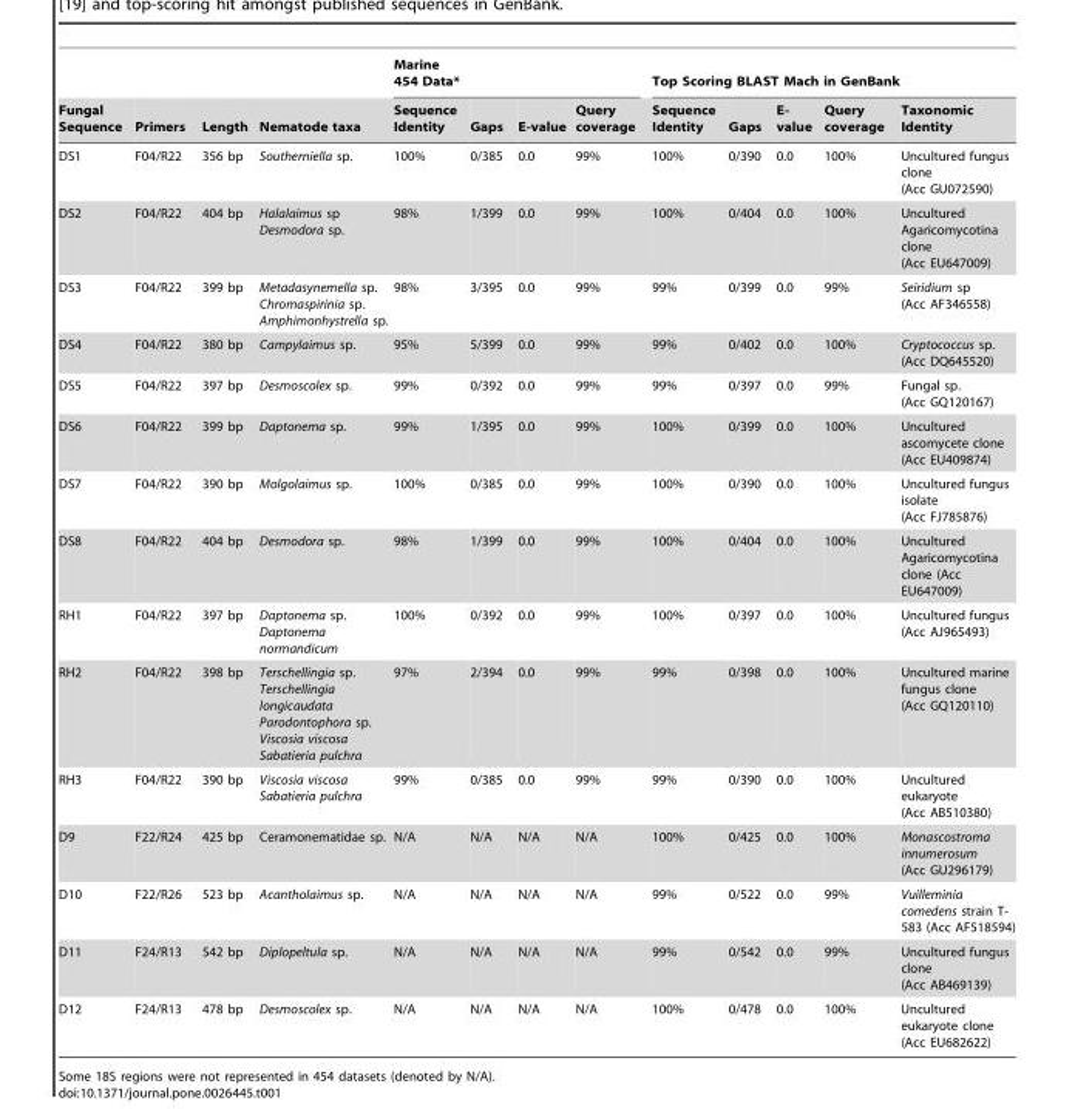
<table><thead><tr><td rowspan="2">Fungal Sequence</td><td rowspan="2">Primers</td><td rowspan="2">Length</td><td rowspan="2">Nematode taxa</td><td colspan="4">Marine 454 Data*</td><td colspan="5">Top Scoring BLAST Mach in GenBank</td></tr><tr><td>Sequence Identity</td><td>Gaps</td><td>E-value</td><td>Query coverage</td><td>Sequence Identity</td><td>Gaps</td><td>E- value</td><td>Query coverage</td><td>Taxonomic Identity</td></tr></thead><tbody><tr><td>DS1</td><td>F04/R22</td><td>356 bp</td><td>Southerniella sp.</td><td>100%</td><td>0/385</td><td>0.0</td><td>99%</td><td>100%</td><td>0/390</td><td>0.0</td><td>100%</td><td>Uncultured fungus clone (Acc GU072590)</td></tr><tr><td>DS2</td><td>F04/R22</td><td>404 bp</td><td>Halalaimus sp Desmodora sp.</td><td>98%</td><td>1/399</td><td>0.0</td><td>99%</td><td>100%</td><td>0/404</td><td>0.0</td><td>100%</td><td>Uncultured Agaricomycotina clone (Acc EU647009)</td></tr><tr><td>DS3</td><td>F04/R22</td><td>399 bp</td><td>Metadasynemella sp. Chromaspirinia sp. Amphimonhystrella sp.</td><td>98%</td><td>3/395</td><td>0.0</td><td>99%</td><td>99%</td><td>0/399</td><td>0.0</td><td>99%</td><td>Seiridium sp (Acc AF346558)</td></tr><tr><td>DS4</td><td>F04/R22</td><td>380 bp</td><td>Campylaimus sp.</td><td>95%</td><td>5/399</td><td>0.0</td><td>99%</td><td>99%</td><td>0/402</td><td>0.0</td><td>100%</td><td>Cryptococcus sp. (Acc DQ645520)</td></tr><tr><td>DS5</td><td>F04/R22</td><td>397 bp</td><td>Desmoscolex sp.</td><td>99%</td><td>0/392</td><td>0.0</td><td>99%</td><td>99%</td><td>0/397</td><td>0.0</td><td>99%</td><td>Fungal sp. (Acc GQ120167)</td></tr><tr><td>DS6</td><td>F04/R22</td><td>399 bp</td><td>Daptonema sp.</td><td>99%</td><td>1/395</td><td>0.0</td><td>99%</td><td>100%</td><td>0/399</td><td>0.0</td><td>100%</td><td>Uncultured ascomycete clone (Acc EU409874)</td></tr><tr><td>DS7</td><td>F04/R22</td><td>390 bp</td><td>Molgolaimus sp.</td><td>100%</td><td>0/385</td><td>0.0</td><td>99%</td><td>100%</td><td>0/390</td><td>0.0</td><td>100%</td><td>Uncultured fungus isolate (Acc FJ785876)</td></tr><tr><td>DS8</td><td>F04/R22</td><td>404 bp</td><td>Desmodora sp.</td><td>98%</td><td>1/399</td><td>0.0</td><td>99%</td><td>100%</td><td>0/404</td><td>0.0</td><td>100%</td><td>Uncultured Agaricomycotina clone (Acc EU647009)</td></tr><tr><td>RH1</td><td>F04/R22</td><td>397 bp</td><td>Daptonema sp. Daptonema normandicum</td><td>100%</td><td>0/392</td><td>0.0</td><td>99%</td><td>100%</td><td>0/397</td><td>0.0</td><td>100%</td><td>Uncultured fungus (Acc AJ965493)</td></tr><tr><td>RH2</td><td>F04/R22</td><td>398 bp</td><td>Terschellingia sp. Terschellingia longicaudata Parodontophora sp. Viscosia viscosa Sabatieria pulchra</td><td>97%</td><td>2/394</td><td>0.0</td><td>99%</td><td>99%</td><td>0/398</td><td>0.0</td><td>100%</td><td>Uncultured marine fungus clone (Acc GQ120110)</td></tr><tr><td>RH3</td><td>F04/R22</td><td>390 bp</td><td>Viscosia viscosa Sabatieria pulchra</td><td>99%</td><td>0/385</td><td>0.0</td><td>99%</td><td>99%</td><td>0/390</td><td>0.0</td><td>100%</td><td>Uncultured eukaryote (Acc AB510380)</td></tr><tr><td>D9</td><td>F22/R24</td><td>425 bp</td><td>Ceramonematidae sp.</td><td>N/A</td><td>N/A</td><td>N/A</td><td>N/A</td><td>100%</td><td>0/425</td><td>0.0</td><td>100%</td><td>Monascostroma innumerosum (Acc GU296179)</td></tr><tr><td>D10</td><td>F22/R26</td><td>523 bp</td><td>Acantholaimus sp.</td><td>N/A</td><td>N/A</td><td>N/A</td><td>N/A</td><td>99%</td><td>0/522</td><td>0.0</td><td>99%</td><td>Vuilleminia comedens strain T- 583 (Acc AF518594)</td></tr><tr><td>D11</td><td>F24/R13</td><td>542 bp</td><td>Diplopeltula sp.</td><td>N/A</td><td>N/A</td><td>N/A</td><td>N/A</td><td>99%</td><td>0/542</td><td>0.0</td><td>99%</td><td>Uncultured fungus clone (Acc AB469139)</td></tr><tr><td>D12</td><td>F24/R13</td><td>478 bp</td><td>Desmoscolex sp.</td><td>N/A</td><td>N/A</td><td>N/A</td><td>N/A</td><td>100%</td><td>0/478</td><td>0.0</td><td>100%</td><td>Uncultured eukaryote clone (Acc EU682622)</td></tr></tbody></table>